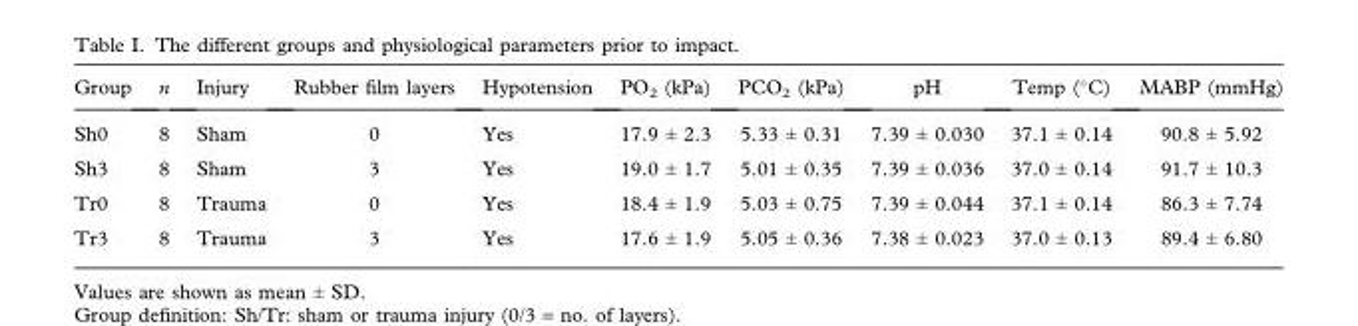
<table><thead><tr><td>Group</td><td>n</td><td>Injury</td><td>Rubber film layers</td><td>Hypotension</td><td>PO<sub>2</sub> (kPa)</td><td>PCO<sub>2</sub> (kPa)</td><td>pH</td><td>Temp (°C)</td><td>MABP (mmHg)</td></tr></thead><tbody><tr><td>Sh0</td><td>8</td><td>Sham</td><td>0</td><td>Yes</td><td>17.9 ± 2.3</td><td>5.33 ± 0.31</td><td>7.39 ± 0.030</td><td>37.1 ± 0.14</td><td>90.8 ± 5.92</td></tr><tr><td>Sh3</td><td>8</td><td>Sham</td><td>3</td><td>Yes</td><td>19.0 ± 1.7</td><td>5.01 ± 0.35</td><td>7.39 ± 0.036</td><td>37.0 ± 0.14</td><td>91.7 ± 10.3</td></tr><tr><td>Tr0</td><td>8</td><td>Trauma</td><td>0</td><td>Yes</td><td>18.4 ± 1.9</td><td>5.03 ± 0.75</td><td>7.39 ± 0.044</td><td>37.1 ± 0.14</td><td>86.3 ± 7.74</td></tr><tr><td>Tr3</td><td>8</td><td>Trauma</td><td>3</td><td>Yes</td><td>17.6 ± 1.9</td><td>5.05 ± 0.36</td><td>7.38 ± 0.023</td><td>37.0 ± 0.13</td><td>89.4 ± 6.80</td></tr></tbody></table>